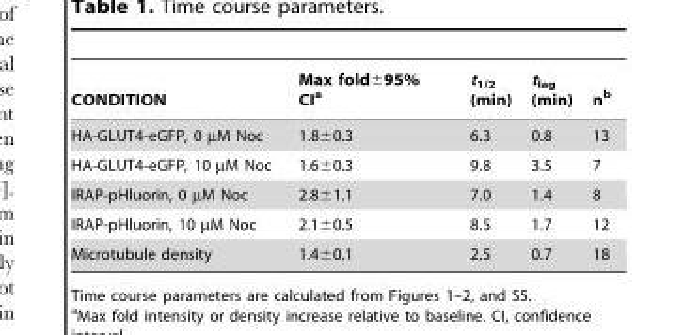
<table><thead><tr><td>CONDITION</td><td>Max fold±95% CI<sup>a</sup></td><td>t<sub>1/2</sub> (min)</td><td>t<sub>lag</sub> (min)</td><td>n<sup>b</sup></td></tr></thead><tbody><tr><td>HA-GLUT4-eGFP, 0 µM Noc</td><td>1.8±0.3</td><td>6.3</td><td>0.8</td><td>13</td></tr><tr><td>HA-GLUT4-eGFP, 10 µM Noc</td><td>1.6±0.3</td><td>9.8</td><td>3.5</td><td>7</td></tr><tr><td>IRAP-pHluorin, 0 µM Noc</td><td>2.8±1.1</td><td>7.0</td><td>1.4</td><td>8</td></tr><tr><td>IRAP-pHluorin, 10 µM Noc</td><td>2.1±0.5</td><td>8.5</td><td>1.7</td><td>12</td></tr><tr><td>Microtubule density</td><td>1.4±0.1</td><td>2.5</td><td>0.7</td><td>18</td></tr></tbody></table>